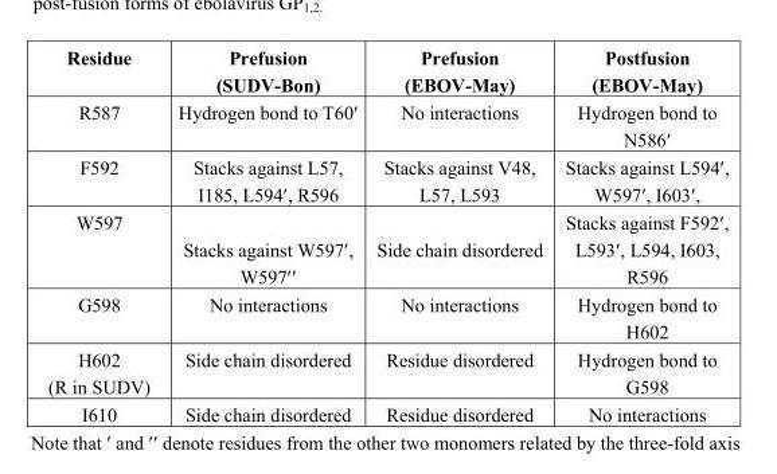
<table><thead><tr><td>Residue</td><td>Prefusion (SUDV-Bon)</td><td>Prefusion (EBOV-May)</td><td>Postfusion (EBOV-May)</td></tr></thead><tbody><tr><td>R587</td><td>Hydrogen bond to T60′</td><td>No interactions</td><td>Hydrogen bond to N586′</td></tr><tr><td>F592</td><td>Stacks against L57, I185, L594′, R596</td><td>Stacks against V48, L57, L593</td><td>Stacks against L594′, W597′, I603′,</td></tr><tr><td>W597</td><td>Stacks against W597′, W597′′</td><td>Side chain disordered</td><td>Stacks against F592′, L593′, L594, I603, R596</td></tr><tr><td>G598</td><td>No interactions</td><td>No interactions</td><td>Hydrogen bond to H602</td></tr><tr><td>H602 (R in SUDV)</td><td>Side chain disordered</td><td>Residue disordered</td><td>Hydrogen bond to G598</td></tr><tr><td>I610</td><td>Side chain disordered</td><td>Residue disordered</td><td>No interactions</td></tr></tbody></table>